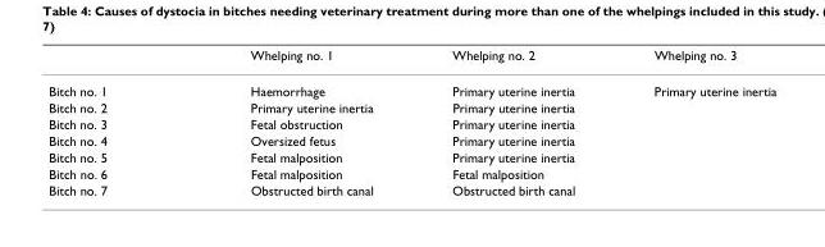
<table><thead><tr><td></td><td>Whelping no. 1</td><td>Whelping no. 2</td><td>Whelping no. 3</td></tr></thead><tbody><tr><td>Bitch no. 1</td><td>Haemorrhage</td><td>Primary uterine inertia</td><td>Primary uterine inertia</td></tr><tr><td>Bitch no. 2</td><td>Primary uterine inertia</td><td>Primary uterine inertia</td><td></td></tr><tr><td>Bitch no. 3</td><td>Fetal obstruction</td><td>Primary uterine inertia</td><td></td></tr><tr><td>Bitch no. 4</td><td>Oversized fetus</td><td>Primary uterine inertia</td><td></td></tr><tr><td>Bitch no. 5</td><td>Fetal malposition</td><td>Primary uterine inertia</td><td></td></tr><tr><td>Bitch no. 6</td><td>Fetal malposition</td><td>Fetal malposition</td><td></td></tr><tr><td>Bitch no. 7</td><td>Obstructed birth canal</td><td>Obstructed birth canal</td><td></td></tr></tbody></table>